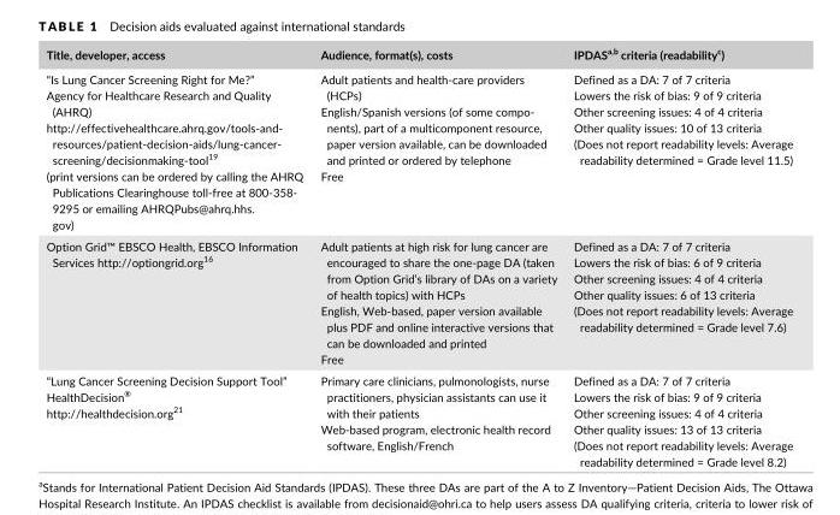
<table><thead><tr><td>Title, developer, access</td><td>Audience, format(s), costs</td><td>IPDAS<sup>a,</sup>b criteria (readability<sup>c</sup>)</td></tr></thead><tbody><tr><td>“Is Lung Cancer Screening Right for Me?” Agency for Healthcare Research and Quality (AHRQ) http://effectivehealthcare.ahrq.gov/tools-and- resources/patient-decision-aids/lung-cancer- screening/decisionmaking-tool19 (print versions can be ordered by calling the AHRQ Publications Clearinghouse toll- free at 800- 358- 9295 or emailing AHRQPubs@ahrq.hhs. gov)</td><td>Adult patients and health- care providers (HCPs) English/Spanish versions (of some compo- nents), part of a multicomponent resource, paper version available, can be downloaded and printed or ordered by telephone Free</td><td>Defined as a DA: 7 of 7 criteria Lowers the risk of bias: 9 of 9 criteria Other screening issues: 4 of 4 criteria Other quality issues: 10 of 13 criteria (Does not report readability levels: Average readability determined = Grade level 11.5)</td></tr><tr><td>Option Grid™ EBSCO Health, EBSCO Information Services http://optiongrid.org16</td><td>Adult patients at high risk for lung cancer are encouraged to share the one- page DA (taken from Option Grid’s library of DAs on a variety of health topics) with HCPs English, Web- based, paper version available plus PDF and online interactive versions that can be downloaded and printed Free</td><td>Defined as a DA: 7 of 7 criteria Lowers the risk of bias: 6 of 9 criteria Other screening issues: 4 of 4 criteria Other quality issues: 6 of 13 criteria (Does not report readability levels: Average readability determined = Grade level 7.6)</td></tr><tr><td>“Lung Cancer Screening Decision Support Tool” HealthDecision<sup>®</sup> http://healthdecision.org21</td><td>Primary care clinicians, pulmonologists, nurse practitioners, physician assistants can use it with their patients Web- based program, electronic health record software, English/French</td><td>Defined as a DA: 7 of 7 criteria Lowers the risk of bias: 9 of 9 criteria Other screening issues: 4 of 4 criteria Other quality issues: 13 of 13 criteria (Does not report readability levels: Average readability determined = Grade level 8.2)</td></tr></tbody></table>